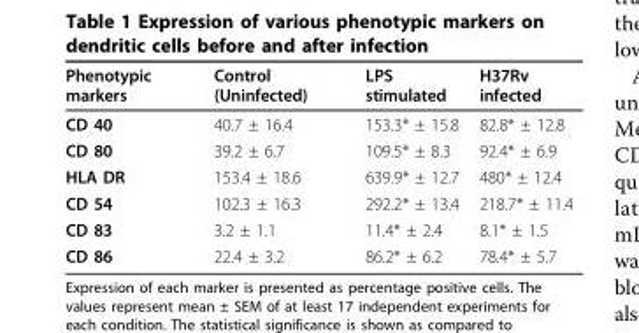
<table><thead><tr><td>Phenotypic markers</td><td>Control (Uninfected)</td><td>LPS stimulated</td><td>H37Rv infected</td></tr></thead><tbody><tr><td>CD 40</td><td>40.7 ± 16.4</td><td>153.3* ± 15.8</td><td>82.8* ± 12.8</td></tr><tr><td>CD 80</td><td>39.2 ± 6.7</td><td>109.5* ± 8.3</td><td>92.4* ± 6.9</td></tr><tr><td>HLA DR</td><td>153.4 ± 18.6</td><td>639.9* ± 12.7</td><td>480* ± 12.4</td></tr><tr><td>CD 54</td><td>102.3 ± 16.3</td><td>292.2* ± 13.4</td><td>218.7* ± 11.4</td></tr><tr><td>CD 83</td><td>3.2 ± 1.1</td><td>11.4* ± 2.4</td><td>8.1* ± 1.5</td></tr><tr><td>CD 86</td><td>22.4 ± 3.2</td><td>86.2* ± 6.2</td><td>78.4* ± 5.7</td></tr></tbody></table>